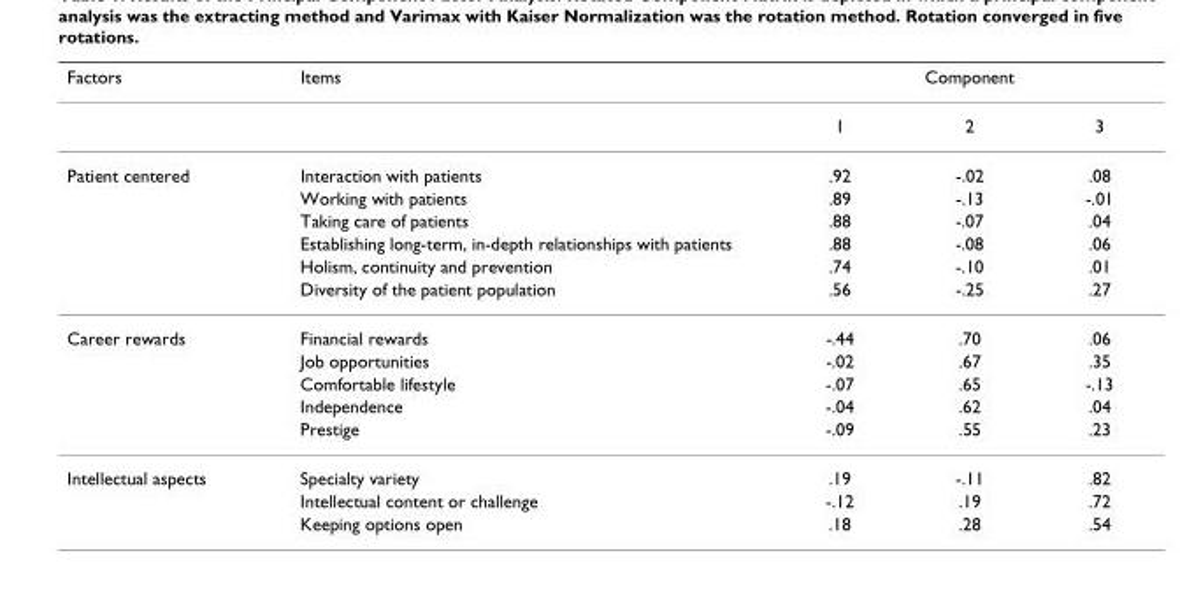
<table><thead><tr><td rowspan="2">Factors</td><td rowspan="2">Items</td><td colspan="3">Component</td></tr><tr><td>1</td><td>2</td><td>3</td></tr></thead><tbody><tr><td rowspan="6">Patient centered</td><td>Interaction with patients</td><td>.92</td><td>-.02</td><td>.08</td></tr><tr><td>Working with patients</td><td>.89</td><td>-.13</td><td>-.01</td></tr><tr><td>Taking care of patients</td><td>.88</td><td>-.07</td><td>.04</td></tr><tr><td>Establishing long-term, in-depth relationships with patients</td><td>.88</td><td>-.08</td><td>.06</td></tr><tr><td>Holism, continuity and prevention</td><td>.74</td><td>-.10</td><td>.01</td></tr><tr><td>Diversity of the patient population</td><td>.56</td><td>-.25</td><td>.27</td></tr><tr><td rowspan="5">Career rewards</td><td>Financial rewards</td><td>-.44</td><td>.70</td><td>.06</td></tr><tr><td>Job opportunities</td><td>-.02</td><td>.67</td><td>.35</td></tr><tr><td>Comfortable lifestyle</td><td>-.07</td><td>.65</td><td>-.13</td></tr><tr><td>Independence</td><td>-.04</td><td>.62</td><td>.04</td></tr><tr><td>Prestige</td><td>-.09</td><td>.55</td><td>.23</td></tr><tr><td rowspan="3">Intellectual aspects</td><td>Specialty variety</td><td>.19</td><td>-.11</td><td>.82</td></tr><tr><td>Intellectual content or challenge</td><td>-.12</td><td>.19</td><td>.72</td></tr><tr><td>Keeping options open</td><td>.18</td><td>.28</td><td>.54</td></tr></tbody></table>